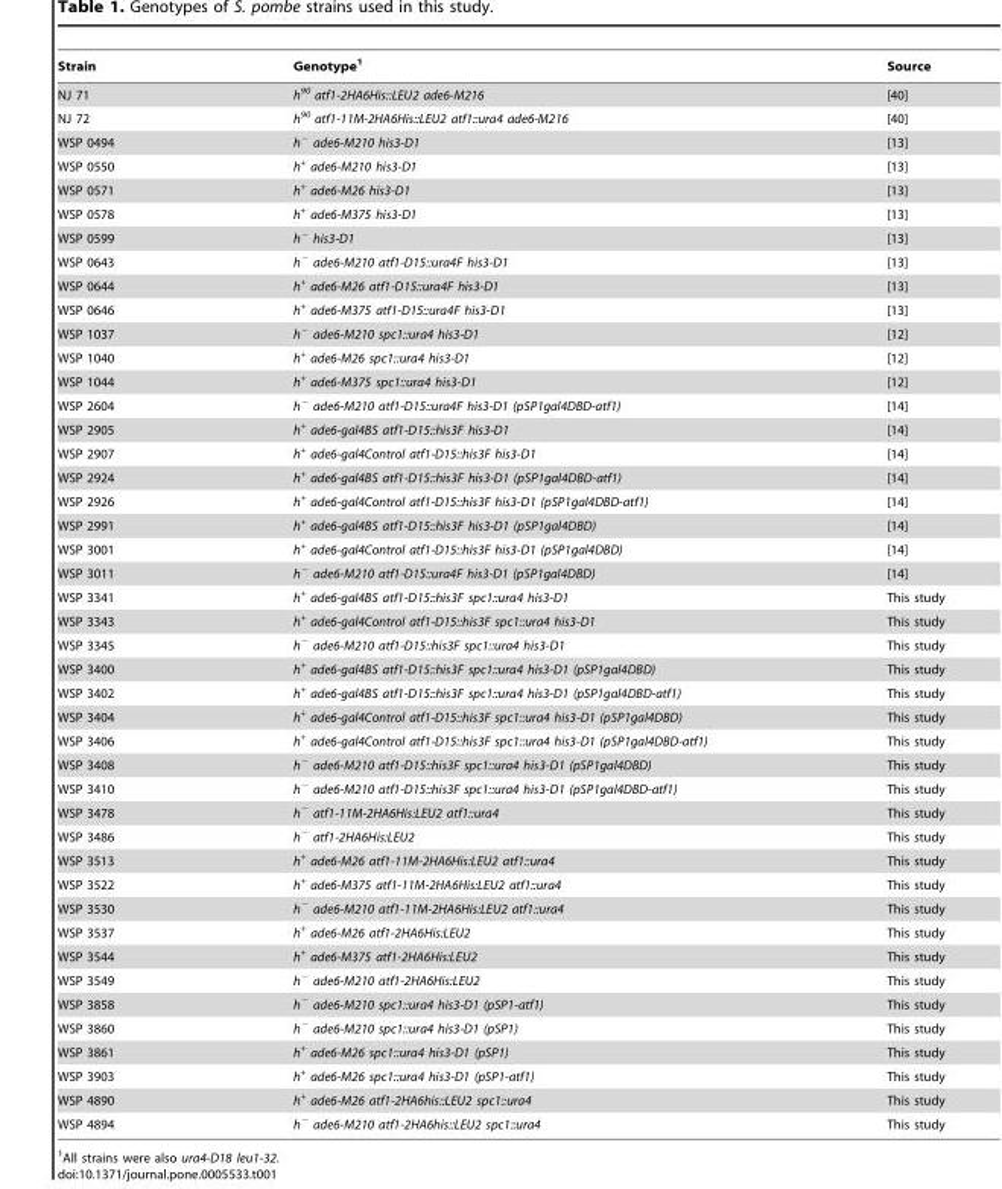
<table><thead><tr><td>Strain</td><td>Genotype<sup>1</sup></td><td>Source</td></tr></thead><tbody><tr><td>NJ 71</td><td>h<sup>90</sup> atf1-2HA6His::LEU2 ade6-M216</td><td>[40]</td></tr><tr><td>NJ 72</td><td>h<sup>90</sup> atf1-11M-2HA6His::LEU2 atf1::ura4 ade6-M216</td><td>[40]</td></tr><tr><td>WSP 0494</td><td>h<sup>−</sup> ade6-M210 his3-D1</td><td>[13]</td></tr><tr><td>WSP 0550</td><td>h<sup>+</sup> ade6-M210 his3-D1</td><td>[13]</td></tr><tr><td>WSP 0571</td><td>h<sup>+</sup> ade6-M26 his3-D1</td><td>[13]</td></tr><tr><td>WSP 0578</td><td>h<sup>+</sup> ade6-M375 his3-D1</td><td>[13]</td></tr><tr><td>WSP 0599</td><td>h<sup>−</sup> his3-D1</td><td>[13]</td></tr><tr><td>WSP 0643</td><td>h<sup>−</sup> ade6-M210 atf1-D15::ura4F his3-D1</td><td>[13]</td></tr><tr><td>WSP 0644</td><td>h<sup>+</sup> ade6-M26 atf1-D15::ura4F his3-D1</td><td>[13]</td></tr><tr><td>WSP 0646</td><td>h<sup>+</sup> ade6-M375 atf1-D15::ura4F his3-D1</td><td>[13]</td></tr><tr><td>WSP 1037</td><td>h<sup>−</sup> ade6-M210 spc1::ura4 his3-D1</td><td>[12]</td></tr><tr><td>WSP 1040</td><td>h<sup>+</sup> ade6-M26 spc1::ura4 his3-D1</td><td>[12]</td></tr><tr><td>WSP 1044</td><td>h<sup>+</sup> ade6-M375 spc1::ura4 his3-D1</td><td>[12]</td></tr><tr><td>WSP 2604</td><td>h<sup>−</sup> ade6-M210 atf1-D15::ura4F his3-D1 (pSP1gal4DBD-atf1)</td><td>[14]</td></tr><tr><td>WSP 2905</td><td>h<sup>+</sup> ade6-gal4BS atf1-D15::his3F his3-D1</td><td>[14]</td></tr><tr><td>WSP 2907</td><td>h<sup>+</sup> ade6-gal4Control atf1-D15::his3F his3-D1</td><td>[14]</td></tr><tr><td>WSP 2924</td><td>h<sup>+</sup> ade6-gal4BS atf1-D15::his3F his3-D1 (pSP1gal4DBD-atf1)</td><td>[14]</td></tr><tr><td>WSP 2926</td><td>h<sup>+</sup> ade6-gal4Control atf1-D15::his3F his3-D1 (pSP1gal4DBD-atf1)</td><td>[14]</td></tr><tr><td>WSP 2991</td><td>h<sup>+</sup> ade6-gal4BS atf1-D15::his3F his3-D1 (pSP1gal4DBD)</td><td>[14]</td></tr><tr><td>WSP 3001</td><td>h<sup>+</sup> ade6-gal4Control atf1-D15::his3F his3-D1 (pSP1gal4DBD)</td><td>[14]</td></tr><tr><td>WSP 3011</td><td>h<sup>−</sup> ade6-M210 atf1-D15::ura4F his3-D1 (pSP1gal4DBD)</td><td>[14]</td></tr><tr><td>WSP 3341</td><td>h<sup>+</sup> ade6-gal4BS atf1-D15::his3F spc1::ura4 his3-D1</td><td>This study</td></tr><tr><td>WSP 3343</td><td>h<sup>+</sup> ade6-gal4Control atf1-D15::his3F spc1::ura4 his3-D1</td><td>This study</td></tr><tr><td>WSP 3345</td><td>h<sup>−</sup> ade6-M210 atf1-D15::his3F spc1::ura4 his3-D1</td><td>This study</td></tr><tr><td>WSP 3400</td><td>h<sup>+</sup> ade6-gal4BS atf1-D15::his3F spc1::ura4 his3-D1 (pSP1gal4DBD)</td><td>This study</td></tr><tr><td>WSP 3402</td><td>h<sup>+</sup> ade6-gal4BS atf1-D15::his3F spc1::ura4 his3-D1 (pSP1gal4DBD-atf1)</td><td>This study</td></tr><tr><td>WSP 3404</td><td>h<sup>+</sup> ade6-gal4Control atf1-D15::his3F spc1::ura4 his3-D1 (pSP1gal4DBD)</td><td>This study</td></tr><tr><td>WSP 3406</td><td>h<sup>+</sup> ade6-gal4Control atf1-D15::his3F spc1::ura4 his3-D1 (pSP1gal4DBD-atf1)</td><td>This study</td></tr><tr><td>WSP 3408</td><td>h<sup>−</sup> ade6-M210 atf1-D15::his3F spc1::ura4 his3-D1 (pSP1gal4DBD)</td><td>This study</td></tr><tr><td>WSP 3410</td><td>h<sup>−</sup> ade6-M210 atf1-D15::his3F spc1::ura4 his3-D1 (pSP1gal4DBD-atf1)</td><td>This study</td></tr><tr><td>WSP 3478</td><td>h<sup>−</sup> atf1-11M-2HA6His:LEU2 atf1::ura4</td><td>This study</td></tr><tr><td>WSP 3486</td><td>h<sup>−</sup> atf1-2HA6His:LEU2</td><td>This study</td></tr><tr><td>WSP 3513</td><td>h<sup>+</sup> ade6-M26 atf1-11M-2HA6His:LEU2 atf1::ura4</td><td>This study</td></tr><tr><td>WSP 3522</td><td>h<sup>+</sup> ade6-M375 atf1-11M-2HA6His:LEU2 atf1::ura4</td><td>This study</td></tr><tr><td>WSP 3530</td><td>h<sup>−</sup> ade6-M210 atf1-11M-2HA6His:LEU2 atf1::ura4</td><td>This study</td></tr><tr><td>WSP 3537</td><td>h<sup>+</sup> ade6-M26 atf1-2HA6His:LEU2</td><td>This study</td></tr><tr><td>WSP 3544</td><td>h<sup>+</sup> ade6-M375 atf1-2HA6His:LEU2</td><td>This study</td></tr><tr><td>WSP 3549</td><td>h<sup>−</sup> ade6-M210 atf1-2HA6His:LEU2</td><td>This study</td></tr><tr><td>WSP 3858</td><td>h<sup>−</sup> ade6-M210 spc1::ura4 his3-D1 (pSP1-atf1)</td><td>This study</td></tr><tr><td>WSP 3860</td><td>h<sup>−</sup> ade6-M210 spc1::ura4 his3-D1 (pSP1)</td><td>This study</td></tr><tr><td>WSP 3861</td><td>h<sup>+</sup> ade6-M26 spc1::ura4 his3-D1 (pSP1)</td><td>This study</td></tr><tr><td>WSP 3903</td><td>h<sup>+</sup> ade6-M26 spc1::ura4 his3-D1 (pSP1-atf1)</td><td>This study</td></tr><tr><td>WSP 4890</td><td>h<sup>+</sup> ade6-M26 atf1-2HA6his::LEU2 spc1::ura4</td><td>This study</td></tr><tr><td>WSP 4894</td><td>h<sup>−</sup> ade6-M210 atf1-2HA6his::LEU2 spc1::ura4</td><td>This study</td></tr></tbody></table>